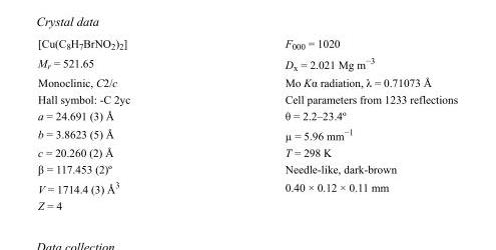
<table><tbody><tr><td>[Cu(C<sub>8</sub>H<sub>7</sub>BrNO<sub>2</sub>)<sub>2</sub>]</td><td>F000 = 1020</td></tr><tr><td>M<sub>r</sub> = 521.65</td><td>D<sub>x</sub> = 2.021 Mg m<sup>−3</sup></td></tr><tr><td>Monoclinic, C2/c</td><td>Mo Kα radiation, λ = 0.71073 Å</td></tr><tr><td>Hall symbol: -C 2yc</td><td>Cell parameters from 1233 reflections</td></tr><tr><td>a = 24.691 (3) Å</td><td>θ = 2.2–23.4º</td></tr><tr><td>b = 3.8623 (5) Å</td><td>µ = 5.96 mm<sup>−1</sup></td></tr><tr><td>c = 20.260 (2) Å</td><td>T = 298 K</td></tr><tr><td>β = 117.453 (2)º</td><td>Needle-like, dark-brown</td></tr><tr><td>V = 1714.4 (3) Å<sup>3</sup></td><td>0.40 × 0.12 × 0.11 mm</td></tr><tr><td>Z = 4</td><td></td></tr></tbody></table>